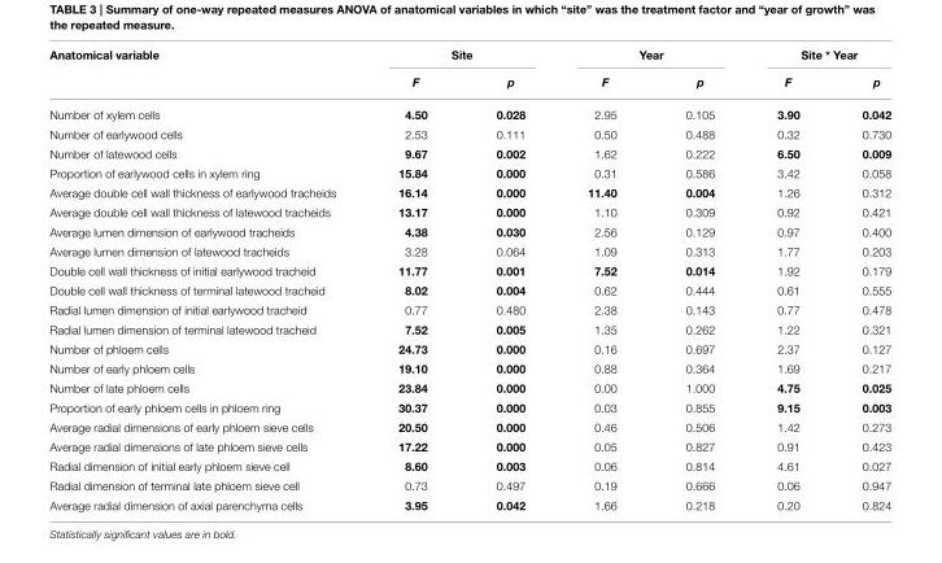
<table><thead><tr><td rowspan="2">Anatomical variable</td><td colspan="2">Site</td><td colspan="2">Year</td><td colspan="2">Site * Year</td></tr><tr><td>F</td><td>p</td><td>F</td><td>p</td><td>F</td><td>p</td></tr></thead><tbody><tr><td>Number of xylem cells</td><td>4.50</td><td>0.028</td><td>2.95</td><td>0.105</td><td>3.90</td><td>0.042</td></tr><tr><td>Number of earlywood cells</td><td>2.53</td><td>0.111</td><td>0.50</td><td>0.488</td><td>0.32</td><td>0.730</td></tr><tr><td>Number of latewood cells</td><td>9.67</td><td>0.002</td><td>1.62</td><td>0.222</td><td>6.50</td><td>0.009</td></tr><tr><td>Proportion of earlywood cells in xylem ring</td><td>15.84</td><td>0.000</td><td>0.31</td><td>0.586</td><td>3.42</td><td>0.058</td></tr><tr><td>Average double cell wall thickness of earlywood tracheids</td><td>16.14</td><td>0.000</td><td>11.40</td><td>0.004</td><td>1.26</td><td>0.312</td></tr><tr><td>Average double cell wall thickness of latewood tracheids</td><td>13.17</td><td>0.000</td><td>1.10</td><td>0.309</td><td>0.92</td><td>0.421</td></tr><tr><td>Average lumen dimension of earlywood tracheids</td><td>4.38</td><td>0.030</td><td>2.56</td><td>0.129</td><td>0.97</td><td>0.400</td></tr><tr><td>Average lumen dimension of latewood tracheids</td><td>3.28</td><td>0.064</td><td>1.09</td><td>0.313</td><td>1.77</td><td>0.203</td></tr><tr><td>Double cell wall thickness of initial earlywood tracheid</td><td>11.77</td><td>0.001</td><td>7.52</td><td>0.014</td><td>1.92</td><td>0.179</td></tr><tr><td>Double cell wall thickness of terminal latewood tracheid</td><td>8.02</td><td>0.004</td><td>0.62</td><td>0.444</td><td>0.61</td><td>0.555</td></tr><tr><td>Radial lumen dimension of initial earlywood tracheid</td><td>0.77</td><td>0.480</td><td>2.38</td><td>0.143</td><td>0.77</td><td>0.478</td></tr><tr><td>Radial lumen dimension of terminal latewood tracheid</td><td>7.52</td><td>0.005</td><td>1.35</td><td>0.262</td><td>1.22</td><td>0.321</td></tr><tr><td>Number of phloem cells</td><td>24.73</td><td>0.000</td><td>0.16</td><td>0.697</td><td>2.37</td><td>0.127</td></tr><tr><td>Number of early phloem cells</td><td>19.10</td><td>0.000</td><td>0.88</td><td>0.364</td><td>1.69</td><td>0.217</td></tr><tr><td>Number of late phloem cells</td><td>23.84</td><td>0.000</td><td>0.00</td><td>1.000</td><td>4.75</td><td>0.025</td></tr><tr><td>Proportion of early phloem cells in phloem ring</td><td>30.37</td><td>0.000</td><td>0.03</td><td>0.855</td><td>9.15</td><td>0.003</td></tr><tr><td>Average radial dimensions of early phloem sieve cells</td><td>20.50</td><td>0.000</td><td>0.46</td><td>0.506</td><td>1.42</td><td>0.273</td></tr><tr><td>Average radial dimensions of late phloem sieve cells</td><td>17.22</td><td>0.000</td><td>0.05</td><td>0.827</td><td>0.91</td><td>0.423</td></tr><tr><td>Radial dimension of initial early phloem sieve cell</td><td>8.60</td><td>0.003</td><td>0.06</td><td>0.814</td><td>4.61</td><td>0.027</td></tr><tr><td>Radial dimension of terminal late phloem sieve cell</td><td>0.73</td><td>0.497</td><td>0.19</td><td>0.666</td><td>0.06</td><td>0.947</td></tr><tr><td>Average radial dimension of axial parenchyma cells</td><td>3.95</td><td>0.042</td><td>1.66</td><td>0.218</td><td>0.20</td><td>0.824</td></tr></tbody></table>